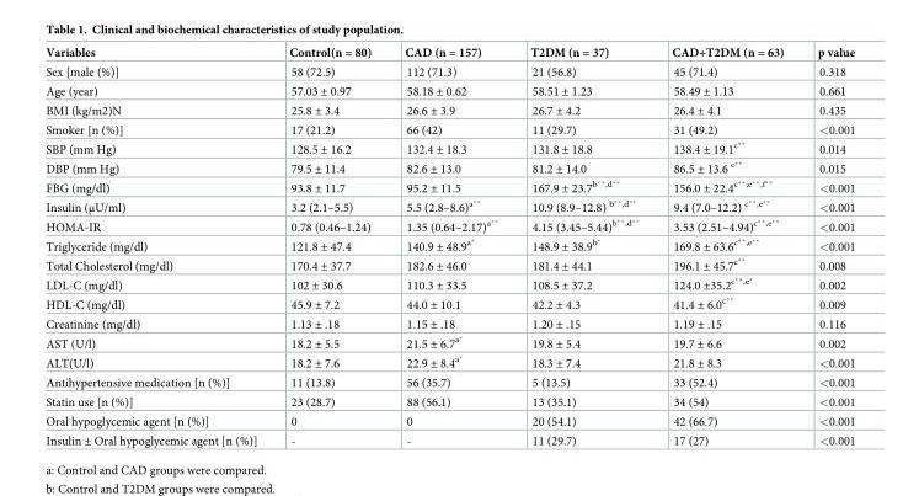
<table><thead><tr><td>Variables</td><td>Control(n = 80)</td><td>CAD (n = 157)</td><td>T2DM (n = 37)</td><td>CAD+T2DM (n = 63)</td><td>p value</td></tr></thead><tbody><tr><td>Sex [male (%)]</td><td>58 (72.5)</td><td>112 (71.3)</td><td>21 (56.8)</td><td>45 (71.4)</td><td>0.318</td></tr><tr><td>Age (year)</td><td>57.03 ± 0.97</td><td>58.18 ± 0.62</td><td>58.51 ± 1.23</td><td>58.49 ± 1.13</td><td>0.661</td></tr><tr><td>BMI (kg/m2)N</td><td>25.8 ± 3.4</td><td>26.6 ± 3.9</td><td>26.7 ± 4.2</td><td>26.4 ± 4.1</td><td>0.435</td></tr><tr><td>Smoker [n (%)]</td><td>17 (21.2)</td><td>66 (42)</td><td>11 (29.7)</td><td>31 (49.2)</td><td>&lt;0.001</td></tr><tr><td>SBP (mm Hg)</td><td>128.5 ± 16.2</td><td>132.4 ± 18.3</td><td>131.8 ± 18.8</td><td>138.4 ± 19.1<sup>c**</sup></td><td>0.014</td></tr><tr><td>DBP (mm Hg)</td><td>79.5 ± 11.4</td><td>82.6 ± 13.0</td><td>81.2 ± 14.0</td><td>86.5 ± 13.6 <sup>c**</sup></td><td>0.015</td></tr><tr><td>FBG (mg/dl)</td><td>93.8 ± 11.7</td><td>95.2 ± 11.5</td><td>167.9 ± 23.7<sup>b**,d**</sup></td><td>156.0 ± 22.4<sup>c**,e**,f**</sup></td><td>&lt;0.001</td></tr><tr><td>Insulin (μU/ml)</td><td>3.2 (2.1–5.5)</td><td>5.5 (2.8–8.6)<sup>a**</sup></td><td>10.9 (8.9–12.8) <sup>b**,d**</sup></td><td>9.4 (7.0–12.2) <sup>c**,e**</sup></td><td>&lt;0.001</td></tr><tr><td>HOMA-IR</td><td>0.78 (0.46–1.24)</td><td>1.35 (0.64–2.17)<sup>a**</sup></td><td>4.15 (3.45–5.44)<sup>b**,d**</sup></td><td>3.53 (2.51–4.94)<sup>c**,e**</sup></td><td>&lt;0.001</td></tr><tr><td>Triglyceride (mg/dl)</td><td>121.8 ± 47.4</td><td>140.9 ± 48.9<sup>a*</sup></td><td>148.9 ± 38.9<sup>b*</sup></td><td>169.8 ± 63.6<sup>c**,e**</sup></td><td>&lt;0.001</td></tr><tr><td>Total Cholesterol (mg/dl)</td><td>170.4 ± 37.7</td><td>182.6 ± 46.0</td><td>181.4 ± 44.1</td><td>196.1 ± 45.7<sup>c**</sup></td><td>0.008</td></tr><tr><td>LDL-C (mg/dl)</td><td>102 ± 30.6</td><td>110.3 ± 33.5</td><td>108.5 ± 37.2</td><td>124.0 ±35.2<sup>c**,e*</sup></td><td>0.002</td></tr><tr><td>HDL-C (mg/dl)</td><td>45.9 ± 7.2</td><td>44.0 ± 10.1</td><td>42.2 ± 4.3</td><td>41.4 ± 6.0<sup>c**</sup></td><td>0.009</td></tr><tr><td>Creatinine (mg/dl)</td><td>1.13 ± .18</td><td>1.15 ± .18</td><td>1.20 ± .15</td><td>1.19 ± .15</td><td>0.116</td></tr><tr><td>AST (U/l)</td><td>18.2 ± 5.5</td><td>21.5 ± 6.7<sup>a*</sup></td><td>19.8 ± 5.4</td><td>19.7 ± 6.6</td><td>0.002</td></tr><tr><td>ALT(U/l)</td><td>18.2 ± 7.6</td><td>22.9 ± 8.4<sup>a*</sup></td><td>18.3 ± 7.4</td><td>21.8 ± 8.3</td><td>&lt;0.001</td></tr><tr><td>Antihypertensive medication [n (%)]</td><td>11 (13.8)</td><td>56 (35.7)</td><td>5 (13.5)</td><td>33 (52.4)</td><td>&lt;0.001</td></tr><tr><td>Statin use [n (%)]</td><td>23 (28.7)</td><td>88 (56.1)</td><td>13 (35.1)</td><td>34 (54)</td><td>&lt;0.001</td></tr><tr><td>Oral hypoglycemic agent [n (%)]</td><td>0</td><td>0</td><td>20 (54.1)</td><td>42 (66.7)</td><td>&lt;0.001</td></tr><tr><td>Insulin ± Oral hypoglycemic agent [n (%)]</td><td>-</td><td>-</td><td>11 (29.7)</td><td>17 (27)</td><td>&lt;0.001</td></tr></tbody></table>